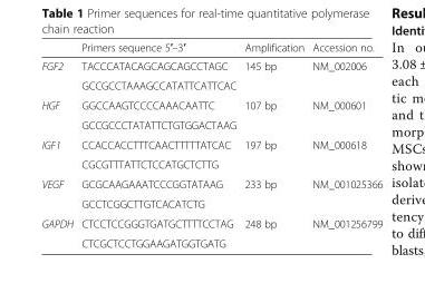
<table><thead><tr><td></td><td>Primers sequence 5′–3′</td><td>Amplification</td><td>Accession no.</td></tr></thead><tbody><tr><td rowspan="2">FGF2</td><td>TACCCATACAGCAGCAGCCTAGC</td><td rowspan="2">145 bp</td><td rowspan="2">NM_002006</td></tr><tr><td>GCCGCCTAAAGCCATATTCATTCAC</td></tr><tr><td rowspan="2">HGF</td><td>GGCCAAGTCCCCAAACAATTC</td><td rowspan="2">107 bp</td><td rowspan="2">NM_000601</td></tr><tr><td>GCCGCCCTATATTCTGTGGACTAAG</td></tr><tr><td rowspan="2">IGF1</td><td>CCACCACCTTTCAACTTTTTATCAC</td><td rowspan="2">197 bp</td><td rowspan="2">NM_000618</td></tr><tr><td>CGCGTTTATTCTCCATGCTCTTG</td></tr><tr><td rowspan="2">VEGF</td><td>GCGCAAGAAATCCCGGTATAAG</td><td rowspan="2">233 bp</td><td rowspan="2">NM_001025366</td></tr><tr><td>GCCTCGGCTTGTCACATCTG</td></tr><tr><td rowspan="2">GAPDH</td><td>CTCCTCCGGGTGATGCTTTTCCTAG</td><td rowspan="2">248 bp</td><td rowspan="2">NM_001256799</td></tr><tr><td>CTCGCTCCTGGAAGATGGTGATG</td></tr></tbody></table>